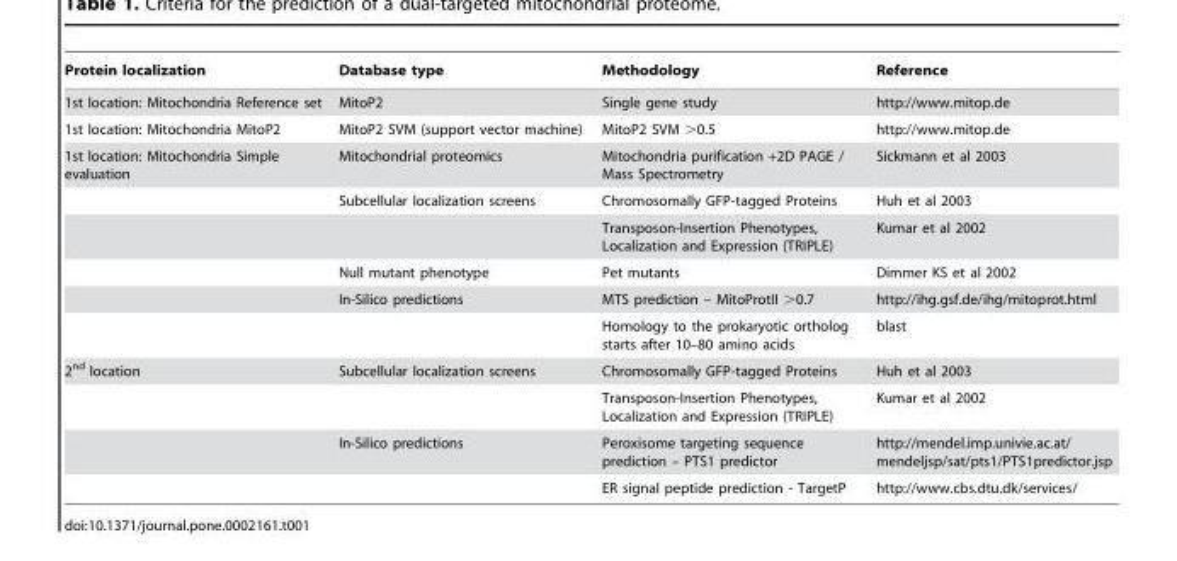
<table><thead><tr><td>Protein localization</td><td>Database type</td><td>Methodology</td><td>Reference</td></tr></thead><tbody><tr><td>1st location: Mitochondria Reference set</td><td>MitoP2</td><td>Single gene study</td><td>http://www.mitop.de</td></tr><tr><td>1st location: Mitochondria MitoP2</td><td>MitoP2 SVM (support vector machine)</td><td>MitoP2 SVM &gt;0.5</td><td>http://www.mitop.de</td></tr><tr><td rowspan="6">1st location: Mitochondria Simple evaluation</td><td>Mitochondrial proteomics</td><td>Mitochondria purification +2D PAGE / Mass Spectrometry</td><td>Sickmann et al 2003</td></tr><tr><td>Subcellular localization screens</td><td>Chromosomally GFP-tagged Proteins</td><td>Huh et al 2003</td></tr><tr><td></td><td>Transposon-Insertion Phenotypes, Localization and Expression (TRIPLE)</td><td>Kumar et al 2002</td></tr><tr><td>Null mutant phenotype</td><td>Pet mutants</td><td>Dimmer KS et al 2002</td></tr><tr><td>In-Silico predictions</td><td>MTS prediction – MitoProtII &gt;0.7</td><td>http://ihg.gsf.de/ihg/mitoprot.html</td></tr><tr><td></td><td>Homology to the prokaryotic ortholog starts after 10–80 amino acids</td><td>blast</td></tr><tr><td rowspan="4">2<sup>nd</sup> location</td><td>Subcellular localization screens</td><td>Chromosomally GFP-tagged Proteins</td><td>Huh et al 2003</td></tr><tr><td></td><td>Transposon-Insertion Phenotypes, Localization and Expression (TRIPLE)</td><td>Kumar et al 2002</td></tr><tr><td>In-Silico predictions</td><td>Peroxisome targeting sequence prediction – PTS1 predictor</td><td>http://mendel.imp.univie.ac.at/ mendeljsp/sat/pts1/PTS1predictor.jsp</td></tr><tr><td></td><td>ER signal peptide prediction - TargetP</td><td>http://www.cbs.dtu.dk/services/</td></tr></tbody></table>